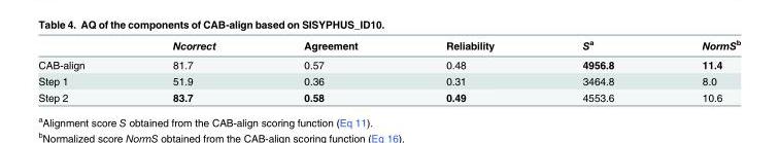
<table><thead><tr><td></td><td>Ncorrect</td><td>Agreement</td><td>Reliability</td><td>S<sup>a</sup></td><td>NormS<sup>b</sup></td></tr></thead><tbody><tr><td>CAB-align</td><td>81.7</td><td>0.57</td><td>0.48</td><td>4956.8</td><td>11.4</td></tr><tr><td>Step 1</td><td>51.9</td><td>0.36</td><td>0.31</td><td>3464.8</td><td>8.0</td></tr><tr><td>Step 2</td><td>83.7</td><td>0.58</td><td>0.49</td><td>4553.6</td><td>10.6</td></tr></tbody></table>